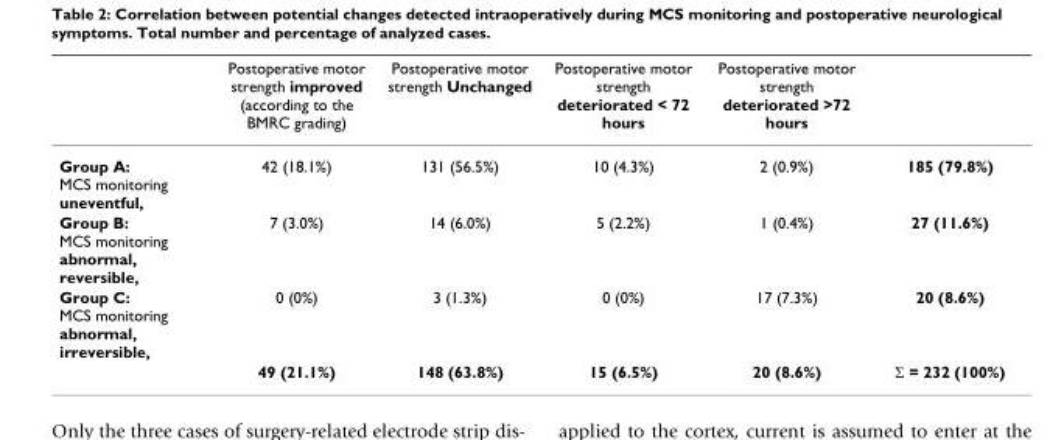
<table><thead><tr><td></td><td>Postoperative motor strength improved (according to the BMRC grading)</td><td>Postoperative motor strength Unchanged</td><td>Postoperative motor strength deteriorated &lt; 72 hours</td><td>Postoperative motor strength deteriorated &gt;72 hours</td><td></td></tr></thead><tbody><tr><td>Group A: MCS monitoring uneventful,</td><td>42 (18.1%)</td><td>131 (56.5%)</td><td>10 (4.3%)</td><td>2 (0.9%)</td><td>185 (79.8%)</td></tr><tr><td>Group B: MCS monitoring abnormal, reversible,</td><td>7 (3.0%)</td><td>14 (6.0%)</td><td>5 (2.2%)</td><td>1 (0.4%)</td><td>27 (11.6%)</td></tr><tr><td rowspan="2">Group C: MCS monitoring abnormal, irreversible,</td><td>0 (0%)</td><td>3 (1.3%)</td><td>0 (0%)</td><td>17 (7.3%)</td><td>20 (8.6%)</td></tr><tr><td>49 (21.1%)</td><td>148 (63.8%)</td><td>15 (6.5%)</td><td>20 (8.6%)</td><td>Σ = 232 (100%)</td></tr></tbody></table>